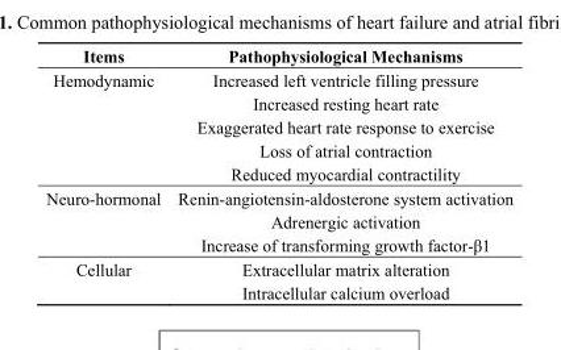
<table><thead><tr><td>Items</td><td>Pathophysiological Mechanisms</td></tr></thead><tbody><tr><td rowspan="5">Hemodynamic</td><td>Increased left ventricle filling pressure</td></tr><tr><td>Increased resting heart rate</td></tr><tr><td>Exaggerated heart rate response to exercise</td></tr><tr><td>Loss of atrial contraction</td></tr><tr><td>Reduced myocardial contractility</td></tr><tr><td rowspan="3">Neuro-hormonal</td><td>Renin-angiotensin-aldosterone system activation</td></tr><tr><td>Adrenergic activation</td></tr><tr><td>Increase of transforming growth factor-β1</td></tr><tr><td rowspan="2">Cellular</td><td>Extracellular matrix alteration</td></tr><tr><td>Intracellular calcium overload</td></tr></tbody></table>